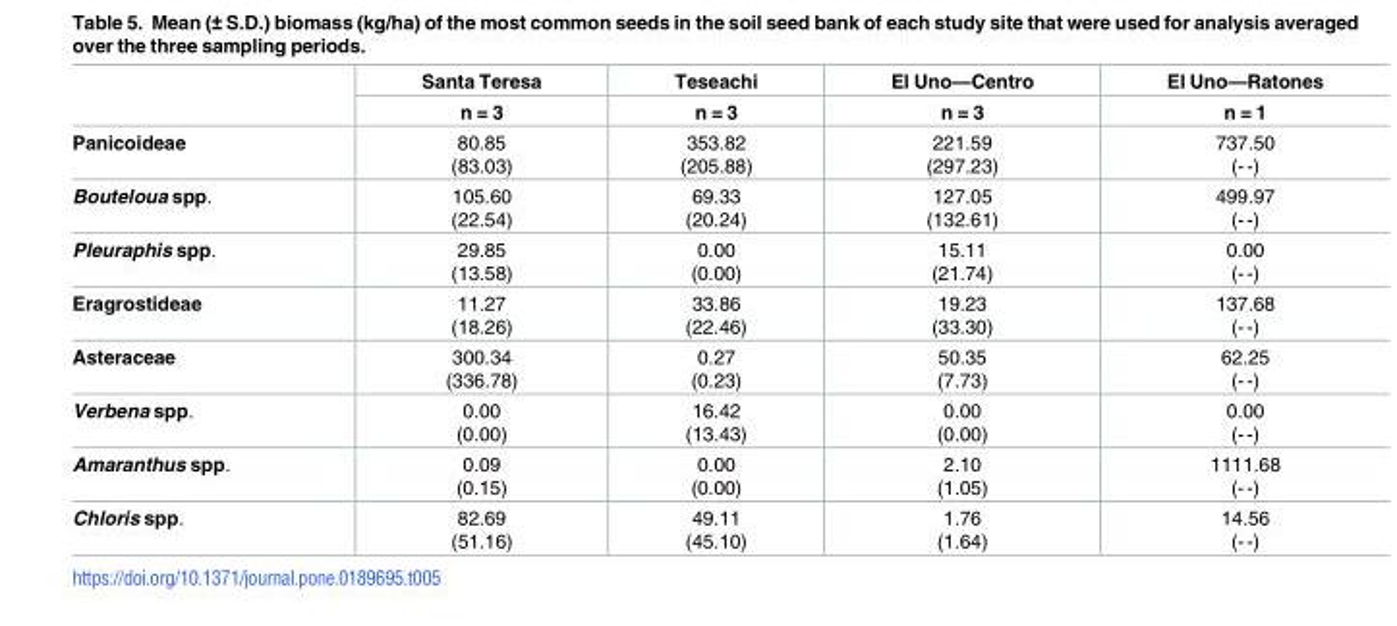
<table><thead><tr><td rowspan="2"></td><td rowspan="2">Santa Teresa n = 3</td><td rowspan="2">Teseachi n = 3</td><td rowspan="2">El Uno—Centro n = 3</td><td rowspan="2">El Uno—Ratones n = 1</td></tr><tr></tr></thead><tbody><tr><td>Panicoideae</td><td>80.85 (83.03)</td><td>353.82 (205.88)</td><td>221.59 (297.23)</td><td>737.50 (--)</td></tr><tr><td>Bouteloua spp.</td><td>105.60 (22.54)</td><td>69.33 (20.24)</td><td>127.05 (132.61)</td><td>499.97 (--)</td></tr><tr><td>Pleuraphis spp.</td><td>29.85 (13.58)</td><td>0.00 (0.00)</td><td>15.11 (21.74)</td><td>0.00 (--)</td></tr><tr><td>Eragrostideae</td><td>11.27 (18.26)</td><td>33.86 (22.46)</td><td>19.23 (33.30)</td><td>137.68 (--)</td></tr><tr><td>Asteraceae</td><td>300.34 (336.78)</td><td>0.27 (0.23)</td><td>50.35 (7.73)</td><td>62.25 (--)</td></tr><tr><td>Verbena spp.</td><td>0.00 (0.00)</td><td>16.42 (13.43)</td><td>0.00 (0.00)</td><td>0.00 (--)</td></tr><tr><td>Amaranthus spp.</td><td>0.09 (0.15)</td><td>0.00 (0.00)</td><td>2.10 (1.05)</td><td>1111.68 (--)</td></tr><tr><td>Chloris spp.</td><td>82.69 (51.16)</td><td>49.11 (45.10)</td><td>1.76 (1.64)</td><td>14.56 (--)</td></tr></tbody></table>